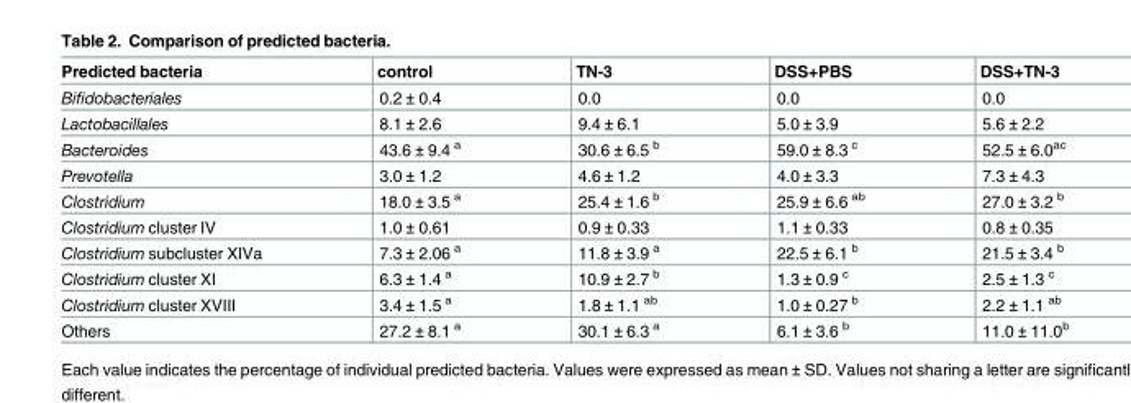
<table><thead><tr><td>Predicted bacteria</td><td>control</td><td>TN-3</td><td>DSS+PBS</td><td>DSS+TN-3</td></tr></thead><tbody><tr><td>Bifidobacteriales</td><td>0.2 ± 0.4</td><td>0.0</td><td>0.0</td><td>0.0</td></tr><tr><td>Lactobacillales</td><td>8.1 ± 2.6</td><td>9.4 ± 6.1</td><td>5.0 ± 3.9</td><td>5.6 ± 2.2</td></tr><tr><td>Bacteroides</td><td>43.6 ± 9.4 <sup>a</sup></td><td>30.6 ± 6.5 <sup>b</sup></td><td>59.0 ± 8.3 <sup>c</sup></td><td>52.5 ± 6.0<sup>ac</sup></td></tr><tr><td>Prevotella</td><td>3.0 ± 1.2</td><td>4.6 ± 1.2</td><td>4.0 ± 3.3</td><td>7.3 ± 4.3</td></tr><tr><td>Clostridium</td><td>18.0 ± 3.5 <sup>a</sup></td><td>25.4 ± 1.6 <sup>b</sup></td><td>25.9 ± 6.6 <sup>ab</sup></td><td>27.0 ± 3.2 <sup>b</sup></td></tr><tr><td>Clostridium cluster IV</td><td>1.0 ± 0.61</td><td>0.9 ± 0.33</td><td>1.1 ± 0.33</td><td>0.8 ± 0.35</td></tr><tr><td>Clostridium subcluster XIVa</td><td>7.3 ± 2.06 <sup>a</sup></td><td>11.8 ± 3.9 <sup>a</sup></td><td>22.5 ± 6.1 <sup>b</sup></td><td>21.5 ± 3.4 <sup>b</sup></td></tr><tr><td>Clostridium cluster XI</td><td>6.3 ± 1.4 <sup>a</sup></td><td>10.9 ± 2.7 <sup>b</sup></td><td>1.3 ± 0.9 <sup>c</sup></td><td>2.5 ± 1.3 <sup>c</sup></td></tr><tr><td>Clostridium cluster XVIII</td><td>3.4 ± 1.5 <sup>a</sup></td><td>1.8 ± 1.1 <sup>ab</sup></td><td>1.0 ± 0.27 <sup>b</sup></td><td>2.2 ± 1.1 <sup>ab</sup></td></tr><tr><td>Others</td><td>27.2 ± 8.1 <sup>a</sup></td><td>30.1 ± 6.3 <sup>a</sup></td><td>6.1 ± 3.6 <sup>b</sup></td><td>11.0 ± 11.0<sup>b</sup></td></tr></tbody></table>